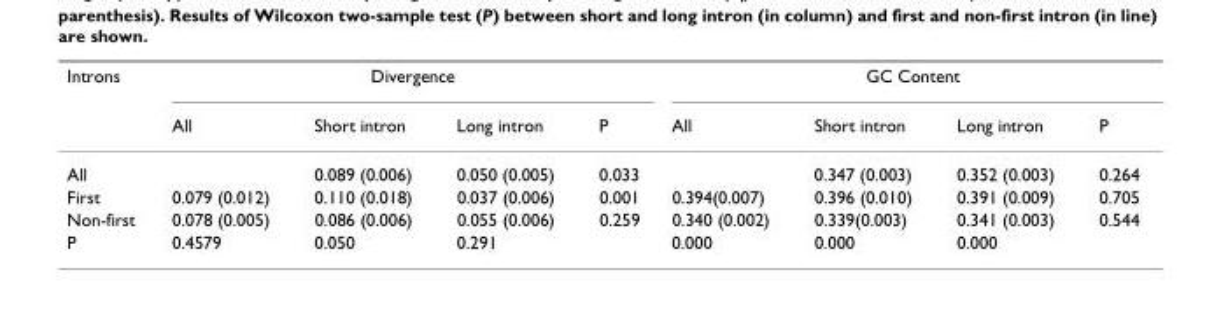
<table><thead><tr><td rowspan="2">Introns</td><td colspan="4">Divergence</td><td colspan="4">GC Content</td></tr><tr><td>All</td><td>Short intron</td><td>Long intron</td><td>P</td><td>All</td><td>Short intron</td><td>Long intron</td><td>P</td></tr></thead><tbody><tr><td>All</td><td></td><td>0.089 (0.006)</td><td>0.050 (0.005)</td><td>0.033</td><td></td><td>0.347 (0.003)</td><td>0.352 (0.003)</td><td>0.264</td></tr><tr><td>First</td><td>0.079 (0.012)</td><td>0.110 (0.018)</td><td>0.037 (0.006)</td><td>0.001</td><td>0.394(0.007)</td><td>0.396 (0.010)</td><td>0.391 (0.009)</td><td>0.705</td></tr><tr><td>Non-first</td><td>0.078 (0.005)</td><td>0.086 (0.006)</td><td>0.055 (0.006)</td><td>0.259</td><td>0.340 (0.002)</td><td>0.339(0.003)</td><td>0.341 (0.003)</td><td>0.544</td></tr><tr><td>P</td><td>0.4579</td><td>0.050</td><td>0.291</td><td></td><td>0.000</td><td>0.000</td><td>0.000</td><td></td></tr></tbody></table>